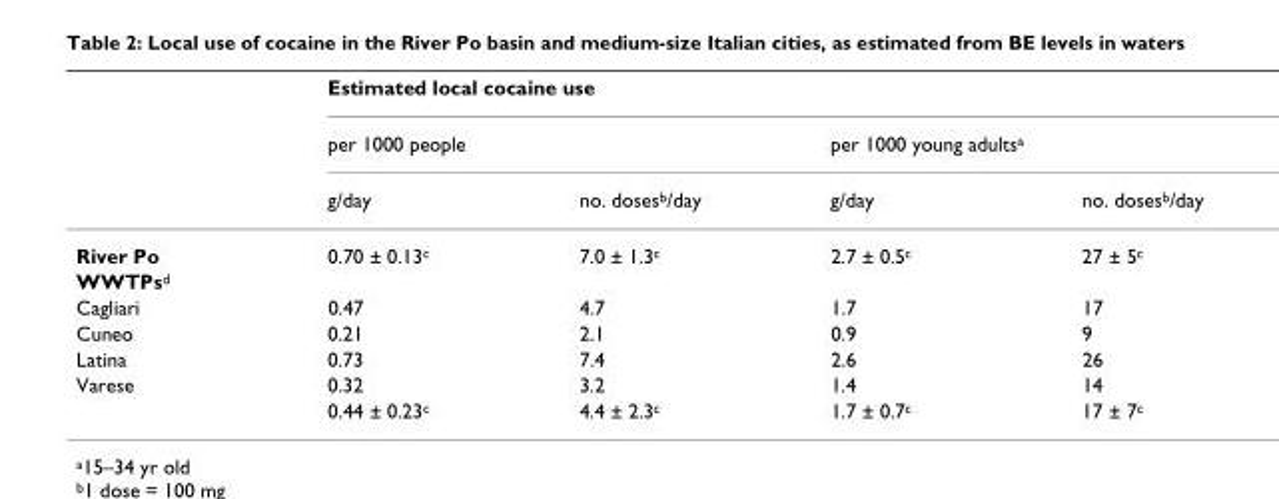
<table><thead><tr><td rowspan="3"></td><td colspan="4">Estimated local cocaine use</td></tr><tr><td colspan="2">per 1000 people</td><td colspan="2">per 1000 young adults<sup>a</sup></td></tr><tr><td>g/day</td><td>no. doses<sup>b</sup>/day</td><td>g/day</td><td>no. doses<sup>b</sup>/day</td></tr></thead><tbody><tr><td>River Po</td><td>0.70 ± 0.13<sup>c</sup></td><td>7.0 ± 1.3<sup>c</sup></td><td>2.7 ± 0.5<sup>c</sup></td><td>27 ± 5<sup>c</sup></td></tr><tr><td colspan="5">WWTPs<sup>d</sup></td></tr><tr><td>Cagliari</td><td>0.47</td><td>4.7</td><td>1.7</td><td>17</td></tr><tr><td>Cuneo</td><td>0.21</td><td>2.1</td><td>0.9</td><td>9</td></tr><tr><td>Latina</td><td>0.73</td><td>7.4</td><td>2.6</td><td>26</td></tr><tr><td rowspan="2">Varese</td><td>0.32</td><td>3.2</td><td>1.4</td><td>14</td></tr><tr><td>0.44 ± 0.23<sup>c</sup></td><td>4.4 ± 2.3<sup>c</sup></td><td>1.7 ± 0.7<sup>c</sup></td><td>17 ± 7<sup>c</sup></td></tr></tbody></table>